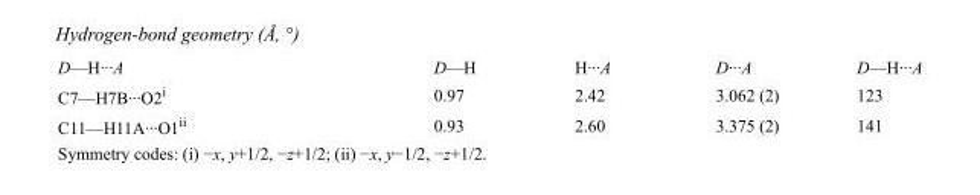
<table><tbody><tr><td>D—H···A</td><td>D—H</td><td>H···A</td><td>D···A</td><td>D—H···A</td></tr><tr><td>C7—H7B···O2<sup>i</sup></td><td>0.97</td><td>2.42</td><td>3.062 (2)</td><td>123</td></tr><tr><td>C11—H11A···O1<sup>ii</sup></td><td>0.93</td><td>2.60</td><td>3.375 (2)</td><td>141</td></tr></tbody></table>